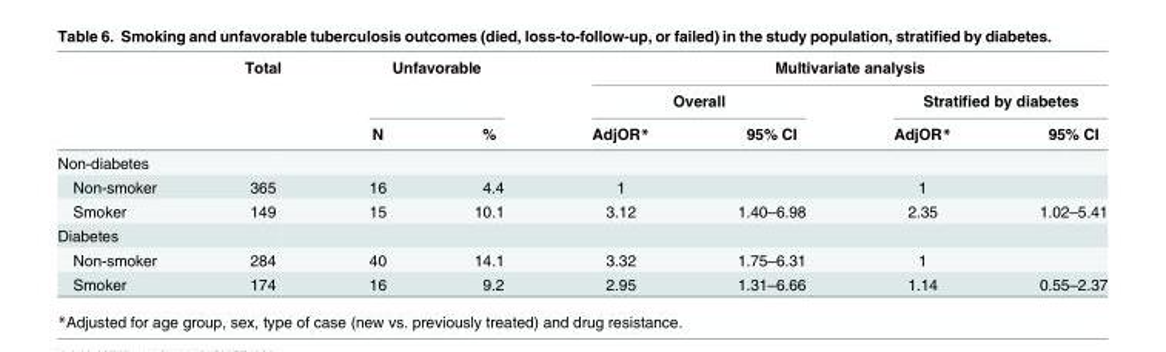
<table><thead><tr><td rowspan="3"></td><td rowspan="3">Total</td><td rowspan="2" colspan="2">Unfavorable</td><td colspan="4">Multivariate analysis</td></tr><tr><td colspan="2">Overall</td><td colspan="2">Stratified by diabetes</td></tr><tr><td>N</td><td>%</td><td>AdjOR*</td><td>95% CI</td><td>AdjOR*</td><td>95% CI</td></tr></thead><tbody><tr><td colspan="8">Non-diabetes</td></tr><tr><td>Non-smoker</td><td>365</td><td>16</td><td>4.4</td><td>1</td><td></td><td>1</td><td></td></tr><tr><td>Smoker</td><td>149</td><td>15</td><td>10.1</td><td>3.12</td><td>1.40–6.98</td><td>2.35</td><td>1.02–5.41</td></tr><tr><td colspan="8">Diabetes</td></tr><tr><td>Non-smoker</td><td>284</td><td>40</td><td>14.1</td><td>3.32</td><td>1.75–6.31</td><td>1</td><td></td></tr><tr><td>Smoker</td><td>174</td><td>16</td><td>9.2</td><td>2.95</td><td>1.31–6.66</td><td>1.14</td><td>0.55–2.37</td></tr></tbody></table>